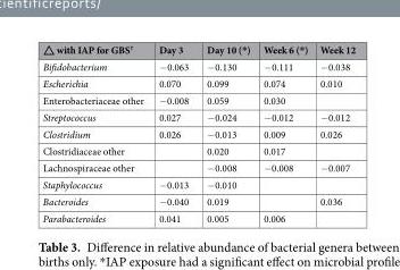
<table><thead><tr><td>△ with IAP for GBS<sup>†</sup></td><td>Day 3</td><td>Day 10 (*)</td><td>Week 6 (*)</td><td>Week 12</td></tr></thead><tbody><tr><td>Bifidobacterium</td><td>−0.063</td><td>−0.130</td><td>−0.111</td><td>−0.038</td></tr><tr><td>Escherichia</td><td>0.070</td><td>0.099</td><td>0.074</td><td>0.010</td></tr><tr><td>Enterobacteriaceae other</td><td>−0.008</td><td>0.059</td><td>0.030</td><td></td></tr><tr><td>Streptococcus</td><td>0.027</td><td>−0.024</td><td>−0.012</td><td>−0.012</td></tr><tr><td>Clostridium</td><td>0.026</td><td>−0.013</td><td>0.009</td><td>0.026</td></tr><tr><td>Clostridiaceae other</td><td></td><td>0.020</td><td>0.017</td><td></td></tr><tr><td>Lachnospiraceae other</td><td></td><td>−0.008</td><td>−0.008</td><td>−0.007</td></tr><tr><td>Staphylococcus</td><td>−0.013</td><td>−0.010</td><td></td><td></td></tr><tr><td>Bacteroides</td><td>−0.040</td><td>0.019</td><td></td><td>0.036</td></tr><tr><td>Parabacteroides</td><td>0.041</td><td>0.005</td><td>0.006</td><td></td></tr></tbody></table>